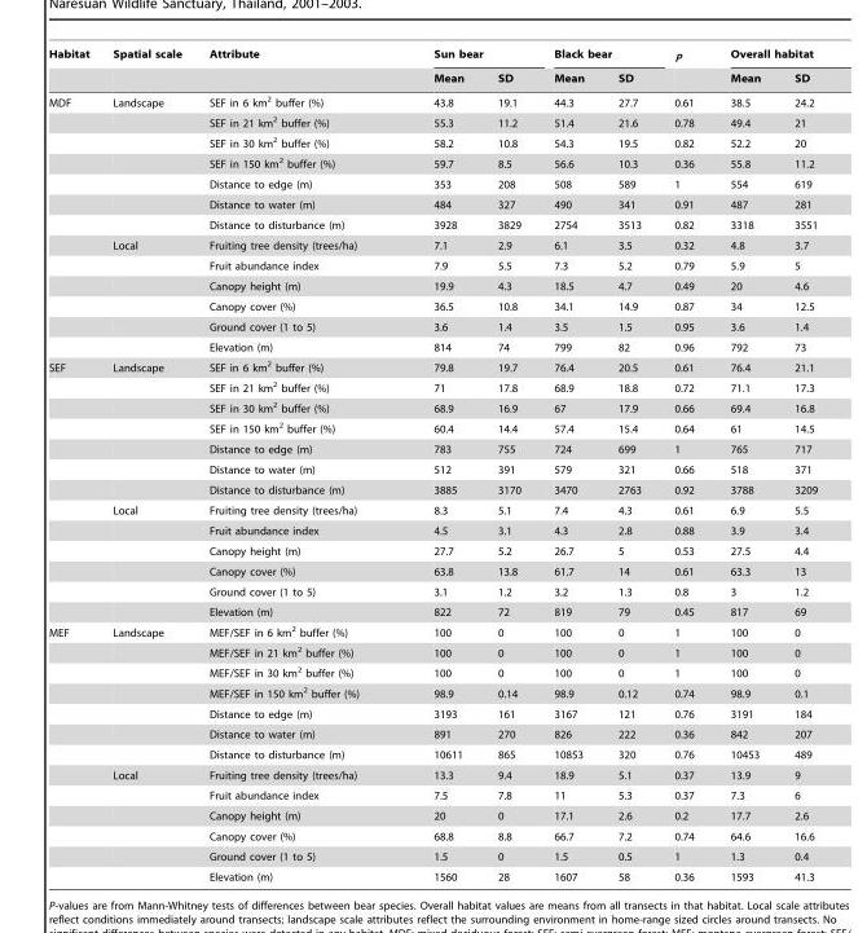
<table><thead><tr><td rowspan="2">Habitat</td><td rowspan="2">Spatial scale</td><td rowspan="2">Attribute</td><td colspan="2">Sun bear</td><td colspan="2">Black bear</td><td rowspan="2">P</td><td colspan="2">Overall habitat</td></tr><tr><td>Mean</td><td>SD</td><td>Mean</td><td>SD</td><td>Mean</td><td>SD</td></tr></thead><tbody><tr><td rowspan="13">MDF</td><td>Landscape</td><td>SEF in 6 km<sup>2</sup> buffer (%)</td><td>43.8</td><td>19.1</td><td>44.3</td><td>27.7</td><td>0.61</td><td>38.5</td><td>24.2</td></tr><tr><td></td><td>SEF in 21 km<sup>2</sup> buffer (%)</td><td>55.3</td><td>11.2</td><td>51.4</td><td>21.6</td><td>0.78</td><td>49.4</td><td>21</td></tr><tr><td></td><td>SEF in 30 km<sup>2</sup> buffer (%)</td><td>58.2</td><td>10.8</td><td>54.3</td><td>19.5</td><td>0.82</td><td>52.2</td><td>20</td></tr><tr><td></td><td>SEF in 150 km<sup>2</sup> buffer (%)</td><td>59.7</td><td>8.5</td><td>56.6</td><td>10.3</td><td>0.36</td><td>55.8</td><td>11.2</td></tr><tr><td></td><td>Distance to edge (m)</td><td>353</td><td>208</td><td>508</td><td>589</td><td>1</td><td>554</td><td>619</td></tr><tr><td></td><td>Distance to water (m)</td><td>484</td><td>327</td><td>490</td><td>341</td><td>0.91</td><td>487</td><td>281</td></tr><tr><td></td><td>Distance to disturbance (m)</td><td>3928</td><td>3829</td><td>2754</td><td>3513</td><td>0.82</td><td>3318</td><td>3551</td></tr><tr><td>Local</td><td>Fruiting tree density (trees/ha)</td><td>7.1</td><td>2.9</td><td>6.1</td><td>3.5</td><td>0.32</td><td>4.8</td><td>3.7</td></tr><tr><td></td><td>Fruit abundance index</td><td>7.9</td><td>5.5</td><td>7.3</td><td>5.2</td><td>0.79</td><td>5.9</td><td>5</td></tr><tr><td></td><td>Canopy height (m)</td><td>19.9</td><td>4.3</td><td>18.5</td><td>4.7</td><td>0.49</td><td>20</td><td>4.6</td></tr><tr><td></td><td>Canopy cover (%)</td><td>36.5</td><td>10.8</td><td>34.1</td><td>14.9</td><td>0.87</td><td>34</td><td>12.5</td></tr><tr><td></td><td>Ground cover (1 to 5)</td><td>3.6</td><td>1.4</td><td>3.5</td><td>1.5</td><td>0.95</td><td>3.6</td><td>1.4</td></tr><tr><td></td><td>Elevation (m)</td><td>814</td><td>74</td><td>799</td><td>82</td><td>0.96</td><td>792</td><td>73</td></tr><tr><td rowspan="13">SEF</td><td>Landscape</td><td>SEF in 6 km<sup>2</sup> buffer (%)</td><td>79.8</td><td>19.7</td><td>76.4</td><td>20.5</td><td>0.61</td><td>76.4</td><td>21.1</td></tr><tr><td></td><td>SEF in 21 km<sup>2</sup> buffer (%)</td><td>71</td><td>17.8</td><td>68.9</td><td>18.8</td><td>0.72</td><td>71.1</td><td>17.3</td></tr><tr><td></td><td>SEF in 30 km<sup>2</sup> buffer (%)</td><td>68.9</td><td>16.9</td><td>67</td><td>17.9</td><td>0.66</td><td>69.4</td><td>16.8</td></tr><tr><td></td><td>SEF in 150 km<sup>2</sup> buffer (%)</td><td>60.4</td><td>14.4</td><td>57.4</td><td>15.4</td><td>0.64</td><td>61</td><td>14.5</td></tr><tr><td></td><td>Distance to edge (m)</td><td>783</td><td>755</td><td>724</td><td>699</td><td>1</td><td>765</td><td>717</td></tr><tr><td></td><td>Distance to water (m)</td><td>512</td><td>391</td><td>579</td><td>321</td><td>0.66</td><td>518</td><td>371</td></tr><tr><td></td><td>Distance to disturbance (m)</td><td>3885</td><td>3170</td><td>3470</td><td>2763</td><td>0.92</td><td>3788</td><td>3209</td></tr><tr><td>Local</td><td>Fruiting tree density (trees/ha)</td><td>8.3</td><td>5.1</td><td>7.4</td><td>4.3</td><td>0.61</td><td>6.9</td><td>5.5</td></tr><tr><td></td><td>Fruit abundance index</td><td>4.5</td><td>3.1</td><td>4.3</td><td>2.8</td><td>0.88</td><td>3.9</td><td>3.4</td></tr><tr><td></td><td>Canopy height (m)</td><td>27.7</td><td>5.2</td><td>26.7</td><td>5</td><td>0.53</td><td>27.5</td><td>4.4</td></tr><tr><td></td><td>Canopy cover (%)</td><td>63.8</td><td>13.8</td><td>61.7</td><td>14</td><td>0.61</td><td>63.3</td><td>13</td></tr><tr><td></td><td>Ground cover (1 to 5)</td><td>3.1</td><td>1.2</td><td>3.2</td><td>1.3</td><td>0.8</td><td>3</td><td>1.2</td></tr><tr><td></td><td>Elevation (m)</td><td>822</td><td>72</td><td>819</td><td>79</td><td>0.45</td><td>817</td><td>69</td></tr><tr><td rowspan="13">MEF</td><td>Landscape</td><td>MEF/SEF in 6 km<sup>2</sup> buffer (%)</td><td>100</td><td>0</td><td>100</td><td>0</td><td>1</td><td>100</td><td>0</td></tr><tr><td></td><td>MEF/SEF in 21 km<sup>2</sup> buffer (%)</td><td>100</td><td>0</td><td>100</td><td>0</td><td>1</td><td>100</td><td>0</td></tr><tr><td></td><td>MEF/SEF in 30 km<sup>2</sup> buffer (%)</td><td>100</td><td>0</td><td>100</td><td>0</td><td>1</td><td>100</td><td>0</td></tr><tr><td></td><td>MEF/SEF in 150 km<sup>2</sup> buffer (%)</td><td>98.9</td><td>0.14</td><td>98.9</td><td>0.12</td><td>0.74</td><td>98.9</td><td>0.1</td></tr><tr><td></td><td>Distance to edge (m)</td><td>3193</td><td>161</td><td>3167</td><td>121</td><td>0.76</td><td>3191</td><td>184</td></tr><tr><td></td><td>Distance to water (m)</td><td>891</td><td>270</td><td>826</td><td>222</td><td>0.36</td><td>842</td><td>207</td></tr><tr><td></td><td>Distance to disturbance (m)</td><td>10611</td><td>865</td><td>10853</td><td>320</td><td>0.76</td><td>10453</td><td>489</td></tr><tr><td>Local</td><td>Fruiting tree density (trees/ha)</td><td>13.3</td><td>9.4</td><td>18.9</td><td>5.1</td><td>0.37</td><td>13.9</td><td>9</td></tr><tr><td></td><td>Fruit abundance index</td><td>7.5</td><td>7.8</td><td>11</td><td>5.3</td><td>0.37</td><td>7.3</td><td>6</td></tr><tr><td></td><td>Canopy height (m)</td><td>20</td><td>0</td><td>17.1</td><td>2.6</td><td>0.2</td><td>17.7</td><td>2.6</td></tr><tr><td></td><td>Canopy cover (%)</td><td>68.8</td><td>8.8</td><td>66.7</td><td>7.2</td><td>0.74</td><td>64.6</td><td>16.6</td></tr><tr><td></td><td>Ground cover (1 to 5)</td><td>1.5</td><td>0</td><td>1.5</td><td>0.5</td><td>1</td><td>1.3</td><td>0.4</td></tr><tr><td></td><td>Elevation (m)</td><td>1560</td><td>28</td><td>1607</td><td>58</td><td>0.36</td><td>1593</td><td>41.3</td></tr></tbody></table>